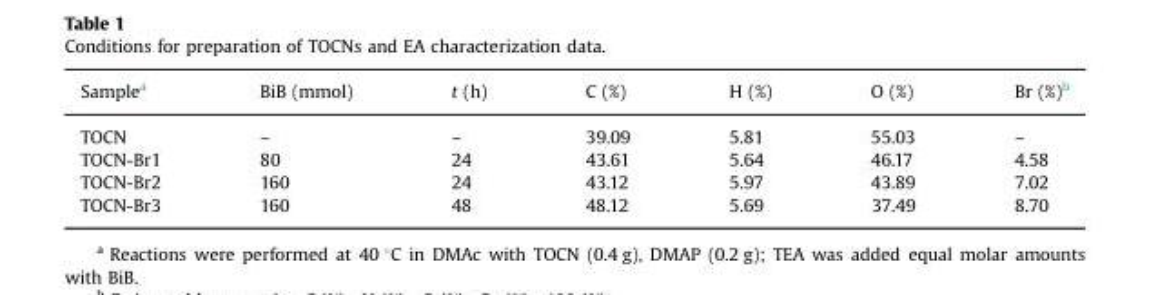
<table><thead><tr><td>Sample<sup>a</sup></td><td>BiB (mmol)</td><td>t (h)</td><td>C (%)</td><td>H (%)</td><td>O (%)</td><td>Br (%)<sup>b</sup></td></tr></thead><tbody><tr><td>TOCN</td><td>–</td><td>–</td><td>39.09</td><td>5.81</td><td>55.03</td><td>–</td></tr><tr><td>TOCN-Br1</td><td>80</td><td>24</td><td>43.61</td><td>5.64</td><td>46.17</td><td>4.58</td></tr><tr><td>TOCN-Br2</td><td>160</td><td>24</td><td>43.12</td><td>5.97</td><td>43.89</td><td>7.02</td></tr><tr><td>TOCN-Br3</td><td>160</td><td>48</td><td>48.12</td><td>5.69</td><td>37.49</td><td>8.70</td></tr></tbody></table>